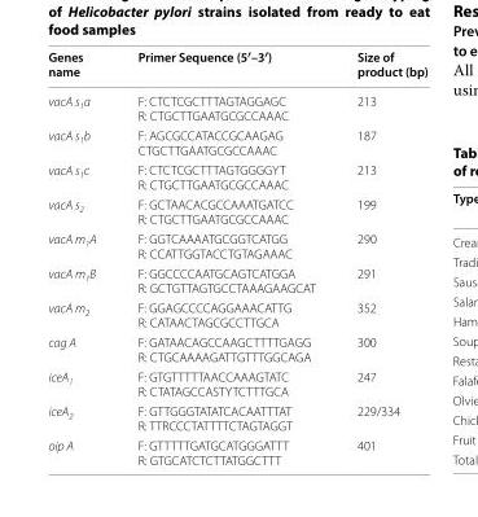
<table><thead><tr><td>Genes name</td><td>Primer Sequence (5′–3′)</td><td>Size of product (bp)</td></tr></thead><tbody><tr><td>vacA s<sub>1</sub>a</td><td>F: CTCTCGCTTTAGTAGGAGC R: CTGCTTGAATGCGCCAAAC</td><td>213</td></tr><tr><td>vacA s<sub>1</sub>b</td><td>F: AGCGCCATACCGCAAGAG CTGCTTGAATGCGCCAAAC</td><td>187</td></tr><tr><td>vacA s<sub>1</sub>c</td><td>F: CTCTCGCTTTAGTGGGGYT R: CTGCTTGAATGCGCCAAAC</td><td>213</td></tr><tr><td>vacA s<sub>2</sub></td><td>F: GCTAACACGCCAAATGATCC R: CTGCTTGAATGCGCCAAAC</td><td>199</td></tr><tr><td>vacA m<sub>1</sub>A</td><td>F: GGTCAAAATGCGGTCATGG R: CCATTGGTACCTGTAGAAAC</td><td>290</td></tr><tr><td>vacA m<sub>1</sub>B</td><td>F: GGCCCCAATGCAGTCATGGA R: GCTGTTAGTGCCTAAAGAAGCAT</td><td>291</td></tr><tr><td>vacA m<sub>2</sub></td><td>F: GGAGCCCCAGGAAACATTG R: CATAACTAGCGCCTTGCA</td><td>352</td></tr><tr><td>cag A</td><td>F: GATAACAGCCAAGCTTTTGAGG R: CTGCAAAAGATTGTTTGGCAGA</td><td>300</td></tr><tr><td>iceA<sub>1</sub></td><td>F: GTGTTTTTAACCAAAGTATC R: CTATAGCCASTYTCTTTGCA</td><td>247</td></tr><tr><td>iceA<sub>2</sub></td><td>F: GTTGGGTATATCACAATTTAT R: TTRCCCTATTTTCTAGTAGGT</td><td>229/334</td></tr><tr><td>oip A</td><td>F: GTTTTTGATGCATGGGATTT R: GTGCATCTCTTATGGCTTT</td><td>401</td></tr></tbody></table>